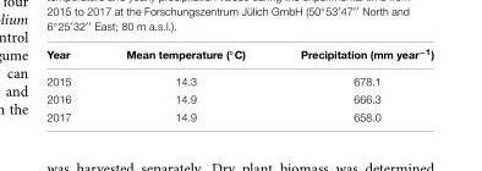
<table><thead><tr><td>Year</td><td>Mean temperature (◦C)</td><td>Precipitation (mm year<sup>−1</sup>)</td></tr></thead><tbody><tr><td>2015</td><td>14.3</td><td>678.1</td></tr><tr><td>2016</td><td>14.9</td><td>666.3</td></tr><tr><td>2017</td><td>14.9</td><td>658.0</td></tr></tbody></table>